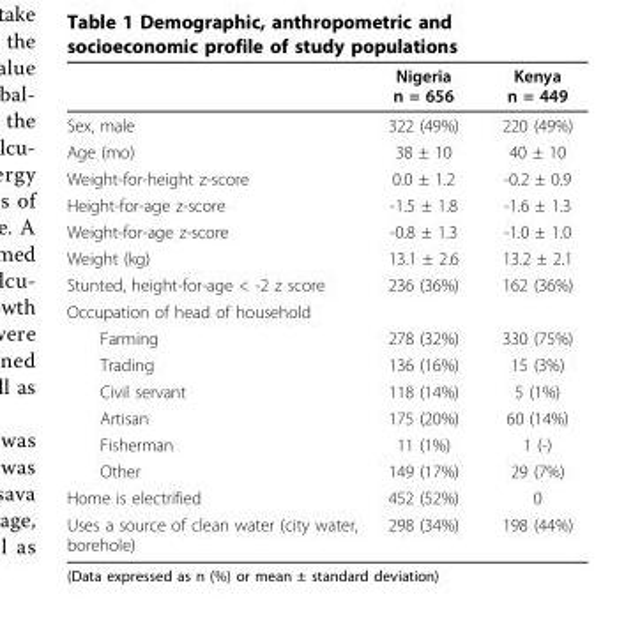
<table><thead><tr><td></td><td>Nigeria n = 656</td><td>Kenya n = 449</td></tr></thead><tbody><tr><td>Sex, male</td><td>322 (49%)</td><td>220 (49%)</td></tr><tr><td>Age (mo)</td><td>38 ± 10</td><td>40 ± 10</td></tr><tr><td>Weight-for-height z-score</td><td>0.0 ± 1.2</td><td>-0.2 ± 0.9</td></tr><tr><td>Height-for-age z-score</td><td>-1.5 ± 1.8</td><td>-1.6 ± 1.3</td></tr><tr><td>Weight-for-age z-score</td><td>-0.8 ± 1.3</td><td>-1.0 ± 1.0</td></tr><tr><td>Weight (kg)</td><td>13.1 ± 2.6</td><td>13.2 ± 2.1</td></tr><tr><td>Stunted, height-for-age &lt; -2 z score</td><td>236 (36%)</td><td>162 (36%)</td></tr><tr><td colspan="3">Occupation of head of household</td></tr><tr><td>Farming</td><td>278 (32%)</td><td>330 (75%)</td></tr><tr><td>Trading</td><td>136 (16%)</td><td>15 (3%)</td></tr><tr><td>Civil servant</td><td>118 (14%)</td><td>5 (1%)</td></tr><tr><td>Artisan</td><td>175 (20%)</td><td>60 (14%)</td></tr><tr><td>Fisherman</td><td>11 (1%)</td><td>1 (-)</td></tr><tr><td>Other</td><td>149 (17%)</td><td>29 (7%)</td></tr><tr><td>Home is electrified</td><td>452 (52%)</td><td>0</td></tr><tr><td>Uses a source of clean water (city water, borehole)</td><td>298 (34%)</td><td>198 (44%)</td></tr></tbody></table>